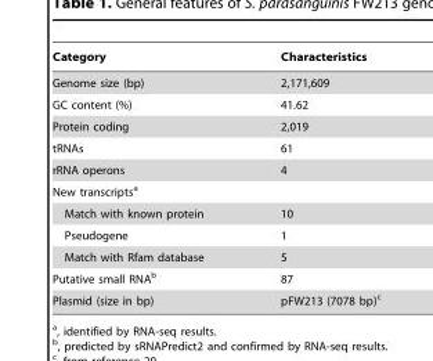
<table><thead><tr><td>Category</td><td>Characteristics</td></tr></thead><tbody><tr><td>Genome size (bp)</td><td>2,171,609</td></tr><tr><td>GC content (%)</td><td>41.62</td></tr><tr><td>Protein coding</td><td>2,019</td></tr><tr><td>tRNAs</td><td>61</td></tr><tr><td>rRNA operons</td><td>4</td></tr><tr><td colspan="2">New transcripts<sup>a</sup></td></tr><tr><td>Match with known protein</td><td>10</td></tr><tr><td>Pseudogene</td><td>1</td></tr><tr><td>Match with Rfam database</td><td>5</td></tr><tr><td>Putative small RNA<sup>b</sup></td><td>87</td></tr><tr><td>Plasmid (size in bp)</td><td>pFW213 (7078 bp)<sup>c</sup></td></tr></tbody></table>